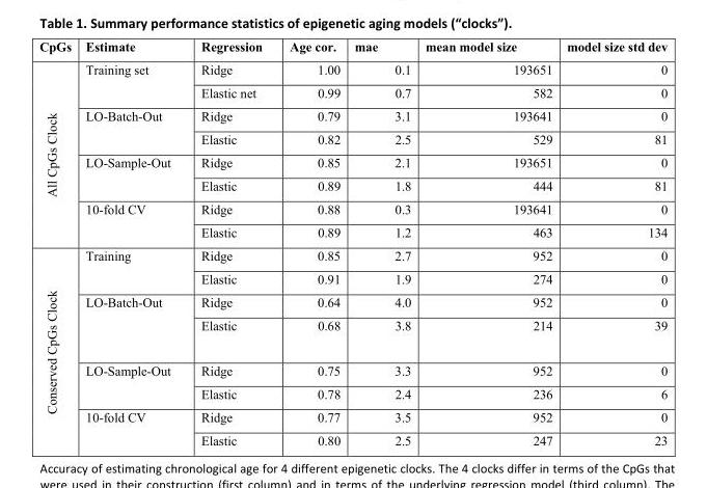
<table><tbody><tr><td>CpGs</td><td>Estimate</td><td>Regression</td><td>Age cor.</td><td>mae</td><td>mean model size</td><td>model size std dev</td></tr><tr><td rowspan="8">All CpGs Clock</td><td rowspan="2">Training set</td><td>Ridge</td><td>1.00</td><td>0.1</td><td>193651</td><td>0</td></tr><tr><td>Elastic net</td><td>0.99</td><td>0.7</td><td>582</td><td>0</td></tr><tr><td rowspan="2">LO-Batch-Out</td><td>Ridge</td><td>0.79</td><td>3.1</td><td>193641</td><td>0</td></tr><tr><td>Elastic</td><td>0.82</td><td>2.5</td><td>529</td><td>81</td></tr><tr><td rowspan="2">LO-Sample-Out</td><td>Ridge</td><td>0.85</td><td>2.1</td><td>193651</td><td>0</td></tr><tr><td>Elastic</td><td>0.89</td><td>1.8</td><td>444</td><td>81</td></tr><tr><td rowspan="2">10-fold CV</td><td>Ridge</td><td>0.88</td><td>0.3</td><td>193641</td><td>0</td></tr><tr><td>Elastic</td><td>0.89</td><td>1.2</td><td>463</td><td>134</td></tr><tr><td rowspan="8">Conserved CpGs Clock</td><td rowspan="2">Training</td><td>Ridge</td><td>0.85</td><td>2.7</td><td>952</td><td>0</td></tr><tr><td>Elastic</td><td>0.91</td><td>1.9</td><td>274</td><td>0</td></tr><tr><td rowspan="2">LO-Batch-Out</td><td>Ridge</td><td>0.64</td><td>4.0</td><td>952</td><td>0</td></tr><tr><td>Elastic</td><td>0.68</td><td>3.8</td><td>214</td><td>39</td></tr><tr><td rowspan="2">LO-Sample-Out</td><td>Ridge</td><td>0.75</td><td>3.3</td><td>952</td><td>0</td></tr><tr><td>Elastic</td><td>0.78</td><td>2.4</td><td>236</td><td>6</td></tr><tr><td rowspan="2">10-fold CV</td><td>Ridge</td><td>0.77</td><td>3.5</td><td>952</td><td>0</td></tr><tr><td>Elastic</td><td>0.80</td><td>2.5</td><td>247</td><td>23</td></tr></tbody></table>